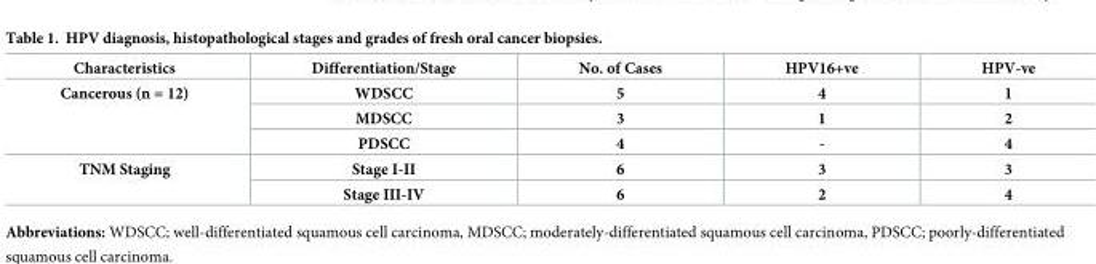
<table><thead><tr><td>Characteristics</td><td>Differentiation/Stage</td><td>No. of Cases</td><td>HPV16+ve</td><td>HPV-ve</td></tr></thead><tbody><tr><td rowspan="3">Cancerous (n = 12)</td><td>WDSCC</td><td>5</td><td>4</td><td>1</td></tr><tr><td>MDSCC</td><td>3</td><td>1</td><td>2</td></tr><tr><td>PDSCC</td><td>4</td><td>-</td><td>4</td></tr><tr><td rowspan="2">TNM Staging</td><td>Stage I-II</td><td>6</td><td>3</td><td>3</td></tr><tr><td>Stage III-IV</td><td>6</td><td>2</td><td>4</td></tr></tbody></table>